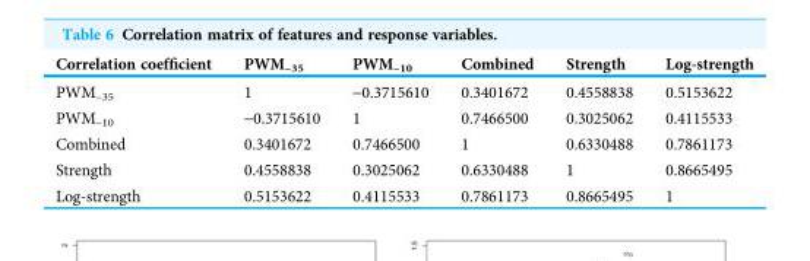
<table><thead><tr><td>Correlation coefficient</td><td>PWM<sub>–35</sub></td><td>PWM<sub>–10</sub></td><td>Combined</td><td>Strength</td><td>Log-strength</td></tr></thead><tbody><tr><td>PWM<sub>–35</sub></td><td>1</td><td>-0.3715610</td><td>0.3401672</td><td>0.4558838</td><td>0.5153622</td></tr><tr><td>PWM<sub>–10</sub></td><td>-0.3715610</td><td>1</td><td>0.7466500</td><td>0.3025062</td><td>0.4115533</td></tr><tr><td>Combined</td><td>0.3401672</td><td>0.7466500</td><td>1</td><td>0.6330488</td><td>0.7861173</td></tr><tr><td>Strength</td><td>0.4558838</td><td>0.3025062</td><td>0.6330488</td><td>1</td><td>0.8665495</td></tr><tr><td>Log-strength</td><td>0.5153622</td><td>0.4115533</td><td>0.7861173</td><td>0.8665495</td><td>1</td></tr></tbody></table>